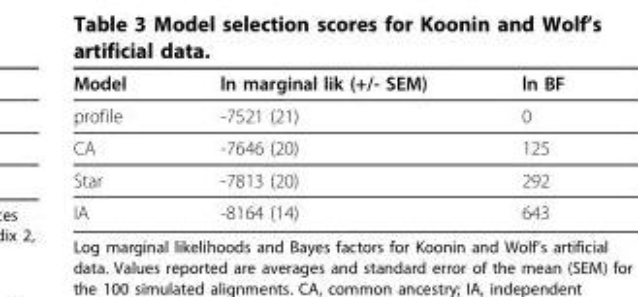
<table><thead><tr><td>Model</td><td>ln marginal lik (+/- SEM)</td><td>ln BF</td></tr></thead><tbody><tr><td>profile</td><td>-7521 (21)</td><td>0</td></tr><tr><td>CA</td><td>-7646 (20)</td><td>125</td></tr><tr><td>Star</td><td>-7813 (20)</td><td>292</td></tr><tr><td>IA</td><td>-8164 (14)</td><td>643</td></tr></tbody></table>